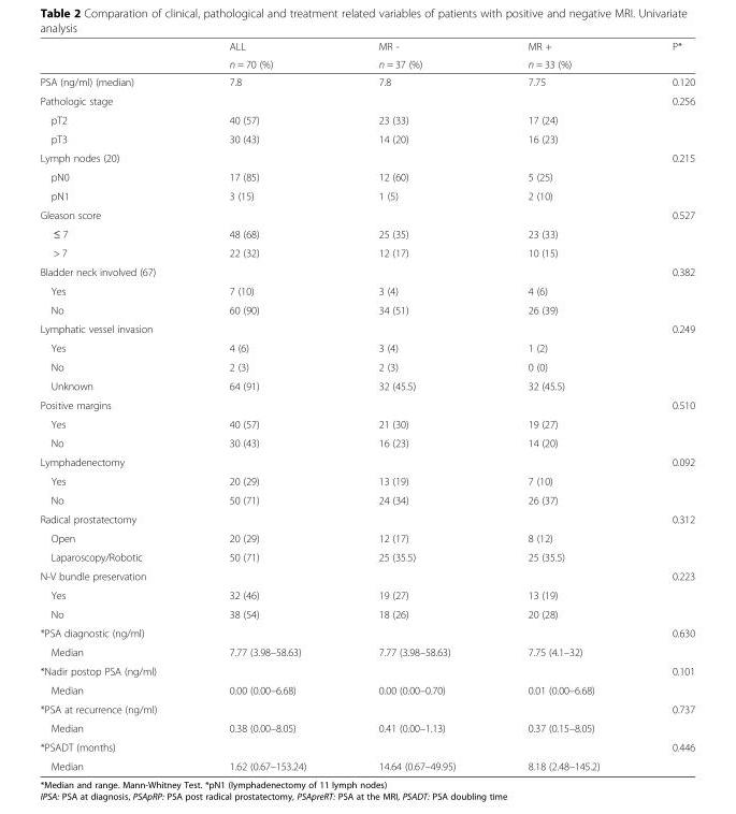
<table><thead><tr><td rowspan="2"></td><td rowspan="2">ALL n = 70 (%)</td><td rowspan="2">MR - n = 37 (%)</td><td rowspan="2">MR + n = 33 (%)</td><td rowspan="2">P*</td></tr><tr></tr></thead><tbody><tr><td>PSA (ng/ml) (median)</td><td>7.8</td><td>7.8</td><td>7.75</td><td>0.120</td></tr><tr><td>Pathologic stage</td><td></td><td></td><td></td><td>0.256</td></tr><tr><td>pT2</td><td>40 (57)</td><td>23 (33)</td><td>17 (24)</td><td></td></tr><tr><td>pT3</td><td>30 (43)</td><td>14 (20)</td><td>16 (23)</td><td></td></tr><tr><td>Lymph nodes (20)</td><td></td><td></td><td></td><td>0.215</td></tr><tr><td>pN0</td><td>17 (85)</td><td>12 (60)</td><td>5 (25)</td><td></td></tr><tr><td>pN1</td><td>3 (15)</td><td>1 (5)</td><td>2 (10)</td><td></td></tr><tr><td>Gleason score</td><td></td><td></td><td></td><td>0.527</td></tr><tr><td>≤ 7</td><td>48 (68)</td><td>25 (35)</td><td>23 (33)</td><td></td></tr><tr><td>&gt; 7</td><td>22 (32)</td><td>12 (17)</td><td>10 (15)</td><td></td></tr><tr><td>Bladder neck involved (67)</td><td></td><td></td><td></td><td>0.382</td></tr><tr><td>Yes</td><td>7 (10)</td><td>3 (4)</td><td>4 (6)</td><td></td></tr><tr><td>No</td><td>60 (90)</td><td>34 (51)</td><td>26 (39)</td><td></td></tr><tr><td>Lymphatic vessel invasion</td><td></td><td></td><td></td><td>0.249</td></tr><tr><td>Yes</td><td>4 (6)</td><td>3 (4)</td><td>1 (2)</td><td></td></tr><tr><td>No</td><td>2 (3)</td><td>2 (3)</td><td>0 (0)</td><td></td></tr><tr><td>Unknown</td><td>64 (91)</td><td>32 (45.5)</td><td>32 (45.5)</td><td></td></tr><tr><td>Positive margins</td><td></td><td></td><td></td><td>0.510</td></tr><tr><td>Yes</td><td>40 (57)</td><td>21 (30)</td><td>19 (27)</td><td></td></tr><tr><td>No</td><td>30 (43)</td><td>16 (23)</td><td>14 (20)</td><td></td></tr><tr><td>Lymphadenectomy</td><td></td><td></td><td></td><td>0.092</td></tr><tr><td>Yes</td><td>20 (29)</td><td>13 (19)</td><td>7 (10)</td><td></td></tr><tr><td>No</td><td>50 (71)</td><td>24 (34)</td><td>26 (37)</td><td></td></tr><tr><td>Radical prostatectomy</td><td></td><td></td><td></td><td>0.312</td></tr><tr><td>Open</td><td>20 (29)</td><td>12 (17)</td><td>8 (12)</td><td></td></tr><tr><td>Laparoscopy/Robotic</td><td>50 (71)</td><td>25 (35.5)</td><td>25 (35.5)</td><td></td></tr><tr><td>N-V bundle preservation</td><td></td><td></td><td></td><td>0.223</td></tr><tr><td>Yes</td><td>32 (46)</td><td>19 (27)</td><td>13 (19)</td><td></td></tr><tr><td>No</td><td>38 (54)</td><td>18 (26)</td><td>20 (28)</td><td></td></tr><tr><td>*PSA diagnostic (ng/ml)</td><td></td><td></td><td></td><td>0.630</td></tr><tr><td>Median</td><td>7.77 (3.98–58.63)</td><td>7.77 (3.98–58.63)</td><td>7.75 (4.1–32)</td><td></td></tr><tr><td>*Nadir postop PSA (ng/ml)</td><td></td><td></td><td></td><td>0.101</td></tr><tr><td>Median</td><td>0.00 (0.00–6.68)</td><td>0.00 (0.00–0.70)</td><td>0.01 (0.00–6.68)</td><td></td></tr><tr><td>*PSA at recurrence (ng/ml)</td><td></td><td></td><td></td><td>0.737</td></tr><tr><td>Median</td><td>0.38 (0.00–8.05)</td><td>0.41 (0.00–1.13)</td><td>0.37 (0.15–8.05)</td><td></td></tr><tr><td>*PSADT (months)</td><td></td><td></td><td></td><td>0.446</td></tr><tr><td>Median</td><td>1.62 (0.67–153.24)</td><td>14.64 (0.67–49.95)</td><td>8.18 (2.48–145.2)</td><td></td></tr></tbody></table>